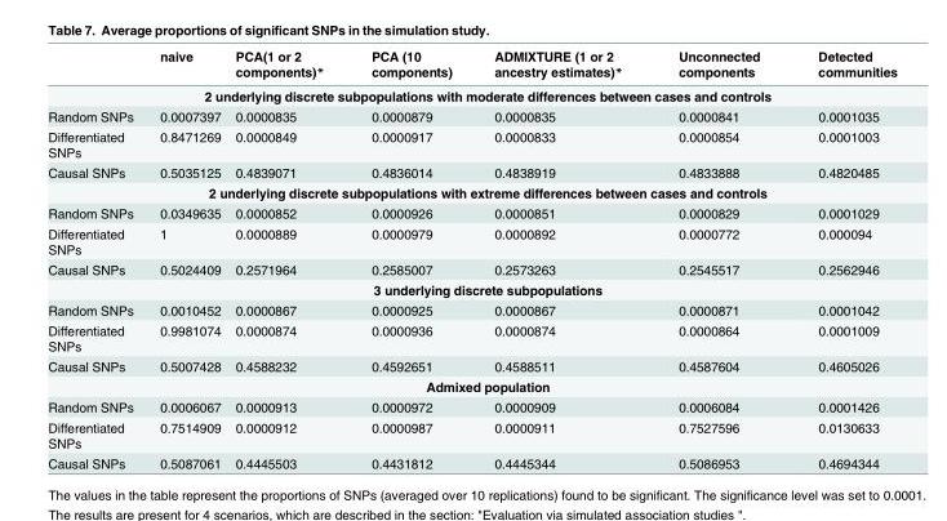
<table><thead><tr><td></td><td>naive</td><td>PCA(1 or 2 components)*</td><td>PCA (10 components)</td><td>ADMIXTURE (1 or 2 ancestry estimates)*</td><td>Unconnected components</td><td>Detected communities</td></tr></thead><tbody><tr><td colspan="7">2 underlying discrete subpopulations with moderate differences between cases and controls</td></tr><tr><td>Random SNPs</td><td>0.0007397</td><td>0.0000835</td><td>0.0000879</td><td>0.0000835</td><td>0.0000841</td><td>0.0001035</td></tr><tr><td>Differentiated SNPs</td><td>0.8471269</td><td>0.0000849</td><td>0.0000917</td><td>0.0000833</td><td>0.0000854</td><td>0.0001003</td></tr><tr><td>Causal SNPs</td><td>0.5035125</td><td>0.4839071</td><td>0.4836014</td><td>0.4838919</td><td>0.4833888</td><td>0.4820485</td></tr><tr><td colspan="7">2 underlying discrete subpopulations with extreme differences between cases and controls</td></tr><tr><td>Random SNPs</td><td>0.0349635</td><td>0.0000852</td><td>0.0000926</td><td>0.0000851</td><td>0.0000829</td><td>0.0001029</td></tr><tr><td>Differentiated SNPs</td><td>1</td><td>0.0000889</td><td>0.0000979</td><td>0.0000892</td><td>0.0000772</td><td>0.000094</td></tr><tr><td>Causal SNPs</td><td>0.5024409</td><td>0.2571964</td><td>0.2585007</td><td>0.2573263</td><td>0.2545517</td><td>0.2562946</td></tr><tr><td colspan="7">3 underlying discrete subpopulations</td></tr><tr><td>Random SNPs</td><td>0.0010452</td><td>0.0000867</td><td>0.0000925</td><td>0.0000867</td><td>0.0000871</td><td>0.0001042</td></tr><tr><td>Differentiated SNPs</td><td>0.9981074</td><td>0.0000874</td><td>0.0000936</td><td>0.0000874</td><td>0.0000864</td><td>0.0001009</td></tr><tr><td>Causal SNPs</td><td>0.5007428</td><td>0.4588232</td><td>0.4592651</td><td>0.4588511</td><td>0.4587604</td><td>0.4605026</td></tr><tr><td colspan="7">Admixed population</td></tr><tr><td>Random SNPs</td><td>0.0006067</td><td>0.0000913</td><td>0.0000972</td><td>0.0000909</td><td>0.0006084</td><td>0.0001426</td></tr><tr><td>Differentiated SNPs</td><td>0.7514909</td><td>0.0000912</td><td>0.0000987</td><td>0.0000911</td><td>0.7527596</td><td>0.0130633</td></tr><tr><td>Causal SNPs</td><td>0.5087061</td><td>0.4445503</td><td>0.4431812</td><td>0.4445344</td><td>0.5086953</td><td>0.4694344</td></tr></tbody></table>